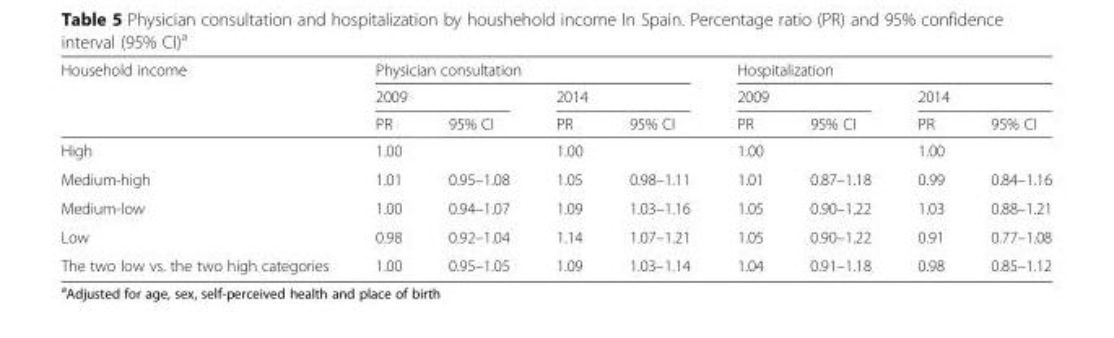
<table><thead><tr><td rowspan="3">Household income</td><td colspan="4">Physician consultation</td><td colspan="4">Hospitalization</td></tr><tr><td colspan="2">2009</td><td colspan="2">2014</td><td colspan="2">2009</td><td colspan="2">2014</td></tr><tr><td>PR</td><td>95% CI</td><td>PR</td><td>95% CI</td><td>PR</td><td>95% CI</td><td>PR</td><td>95% CI</td></tr></thead><tbody><tr><td>High</td><td>1.00</td><td></td><td>1.00</td><td></td><td>1.00</td><td></td><td>1.00</td><td></td></tr><tr><td>Medium-high</td><td>1.01</td><td>0.95–1.08</td><td>1.05</td><td>0.98–1.11</td><td>1.01</td><td>0.87–1.18</td><td>0.99</td><td>0.84–1.16</td></tr><tr><td>Medium-low</td><td>1.00</td><td>0.94–1.07</td><td>1.09</td><td>1.03–1.16</td><td>1.05</td><td>0.90–1.22</td><td>1.03</td><td>0.88–1.21</td></tr><tr><td>Low</td><td>0.98</td><td>0.92–1.04</td><td>1.14</td><td>1.07–1.21</td><td>1.05</td><td>0.90–1.22</td><td>0.91</td><td>0.77–1.08</td></tr><tr><td>The two low vs. the two high categories</td><td>1.00</td><td>0.95–1.05</td><td>1.09</td><td>1.03–1.14</td><td>1.04</td><td>0.91–1.18</td><td>0.98</td><td>0.85–1.12</td></tr></tbody></table>